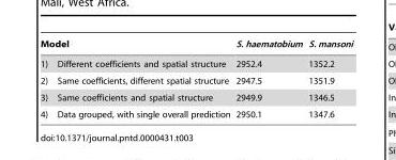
<table><thead><tr><td>Model</td><td>S. haematobium</td><td>S. mansoni</td></tr></thead><tbody><tr><td>1) Different coefficients and spatial structure</td><td>2952.4</td><td>1352.2</td></tr><tr><td>2) Same coefficients, different spatial structure</td><td>2947.5</td><td>1351.9</td></tr><tr><td>3) Same coefficients and spatial structure</td><td>2949.9</td><td>1346.5</td></tr><tr><td>4) Data grouped, with single overall prediction</td><td>2950.1</td><td>1347.6</td></tr></tbody></table>